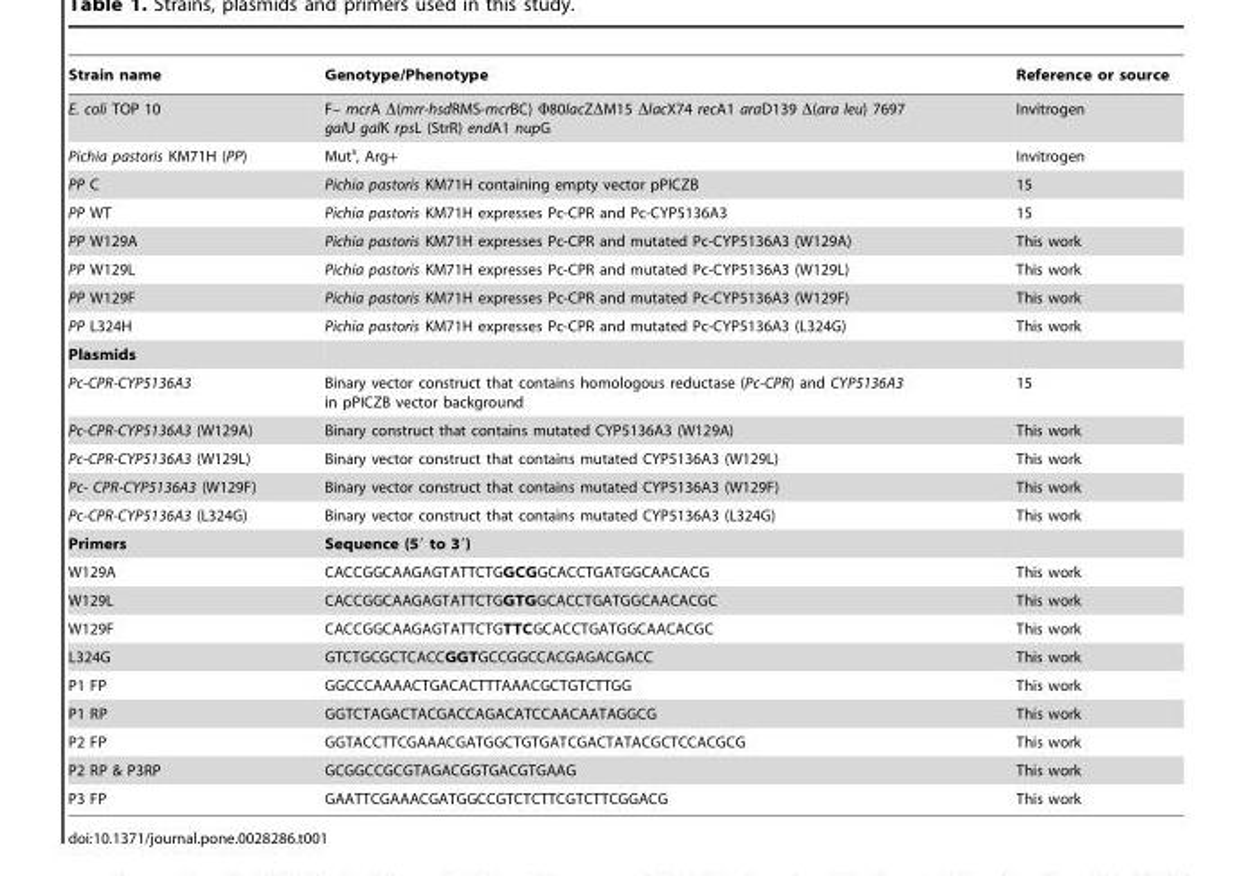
<table><thead><tr><td>Strain name</td><td>Genotype/Phenotype</td><td>Reference or source</td></tr></thead><tbody><tr><td>E. coli TOP 10</td><td>F– mcrA Δ(mrr-hsdRMS-mcrBC) Φ80lacZΔM15 ΔlacX74 recA1 araD139 Δ(ara leu) 7697 galU galK rpsL (StrR) endA1 nupG</td><td>Invitrogen</td></tr><tr><td>Pichia pastoris KM71H (PP)</td><td>Mut<sup>s</sup>, Arg+</td><td>Invitrogen</td></tr><tr><td>PP C</td><td>Pichia pastoris KM71H containing empty vector pPICZB</td><td>15</td></tr><tr><td>PP WT</td><td>Pichia pastoris KM71H expresses Pc-CPR and Pc-CYP5136A3</td><td>15</td></tr><tr><td>PP W129A</td><td>Pichia pastoris KM71H expresses Pc-CPR and mutated Pc-CYP5136A3 (W129A)</td><td>This work</td></tr><tr><td>PP W129L</td><td>Pichia pastoris KM71H expresses Pc-CPR and mutated Pc-CYP5136A3 (W129L)</td><td>This work</td></tr><tr><td>PP W129F</td><td>Pichia pastoris KM71H expresses Pc-CPR and mutated Pc-CYP5136A3 (W129F)</td><td>This work</td></tr><tr><td>PP L324H</td><td>Pichia pastoris KM71H expresses Pc-CPR and mutated Pc-CYP5136A3 (L324G)</td><td>This work</td></tr><tr><td colspan="3">Plasmids</td></tr><tr><td>Pc-CPR-CYP5136A3</td><td>Binary vector construct that contains homologous reductase (Pc-CPR) and CYP5136A3 in pPICZB vector background</td><td>15</td></tr><tr><td>Pc-CPR-CYP5136A3 (W129A)</td><td>Binary construct that contains mutated CYP5136A3 (W129A)</td><td>This work</td></tr><tr><td>Pc-CPR-CYP5136A3 (W129L)</td><td>Binary vector construct that contains mutated CYP5136A3 (W129L)</td><td>This work</td></tr><tr><td>Pc- CPR-CYP5136A3 (W129F)</td><td>Binary vector construct that contains mutated CYP5136A3 (W129F)</td><td>This work</td></tr><tr><td>Pc-CPR-CYP5136A3 (L324G)</td><td>Binary vector construct that contains mutated CYP5136A3 (L324G)</td><td>This work</td></tr><tr><td>Primers</td><td>Sequence (5′ to 3′)</td><td></td></tr><tr><td>W129A</td><td>CACCGGCAAGAGTATTCTGGCGGCACCTGATGGCAACACG</td><td>This work</td></tr><tr><td>W129L</td><td>CACCGGCAAGAGTATTCTGGTGGCACCTGATGGCAACACGC</td><td>This work</td></tr><tr><td>W129F</td><td>CACCGGCAAGAGTATTCTGTTCGCACCTGATGGCAACACGC</td><td>This work</td></tr><tr><td>L324G</td><td>GTCTGCGCTCACCGGTGCCGGCCACGAGACGACC</td><td>This work</td></tr><tr><td>P1 FP</td><td>GGCCCAAAACTGACACTTTAAACGCTGTCTTGG</td><td>This work</td></tr><tr><td>P1 RP</td><td>GGTCTAGACTACGACCAGACATCCAACAATAGGCG</td><td>This work</td></tr><tr><td>P2 FP</td><td>GGTACCTTCGAAACGATGGCTGTGATCGACTATACGCTCCACGCG</td><td>This work</td></tr><tr><td>P2 RP &amp; P3RP</td><td>GCGGCCGCGTAGACGGTGACGTGAAG</td><td>This work</td></tr><tr><td>P3 FP</td><td>GAATTCGAAACGATGGCCGTCTCTTCGTCTTCGGACG</td><td>This work</td></tr></tbody></table>